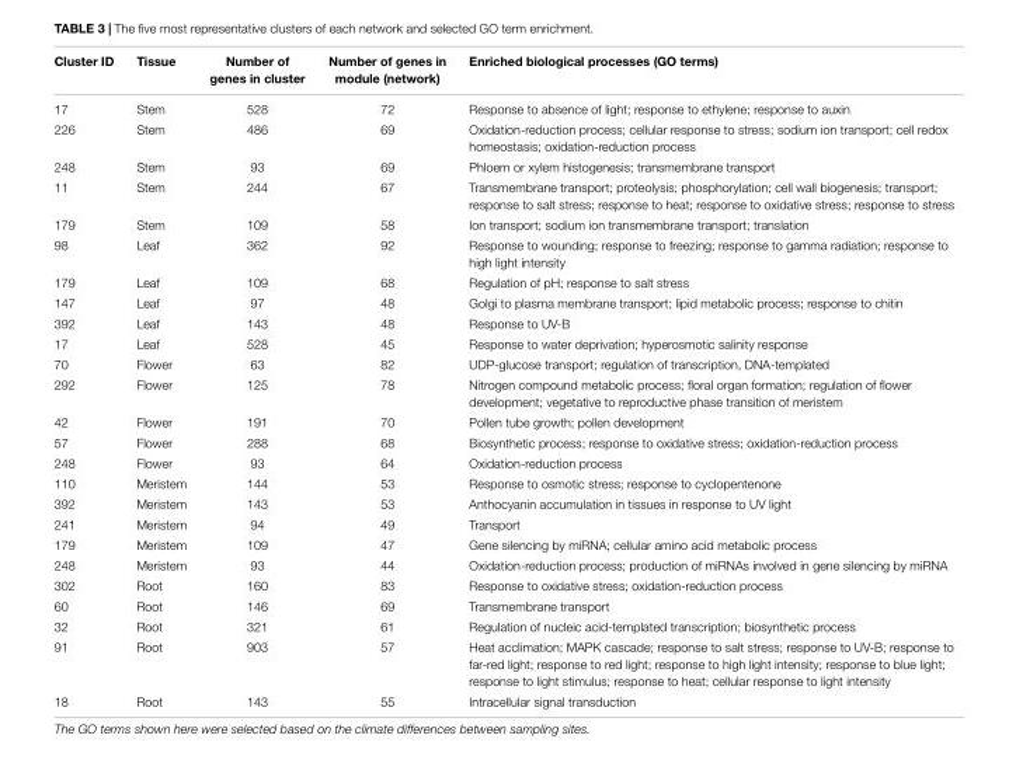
<table><thead><tr><td>Cluster ID</td><td>Tissue</td><td>Number of genes in cluster</td><td>Number of genes in module (network)</td><td>Enriched biological processes (GO terms)</td></tr></thead><tbody><tr><td>17</td><td>Stem</td><td>528</td><td>72</td><td>Response to absence of light; response to ethylene; response to auxin</td></tr><tr><td>226</td><td>Stem</td><td>486</td><td>69</td><td>Oxidation-reduction process; cellular response to stress; sodium ion transport; cell redox homeostasis; oxidation-reduction process</td></tr><tr><td>248</td><td>Stem</td><td>93</td><td>69</td><td>Phloem or xylem histogenesis; transmembrane transport</td></tr><tr><td>11</td><td>Stem</td><td>244</td><td>67</td><td>Transmembrane transport; proteolysis; phosphorylation; cell wall biogenesis; transport; response to salt stress; response to heat; response to oxidative stress; response to stress</td></tr><tr><td>179</td><td>Stem</td><td>109</td><td>58</td><td>Ion transport; sodium ion transmembrane transport; translation</td></tr><tr><td>98</td><td>Leaf</td><td>362</td><td>92</td><td>Response to wounding; response to freezing; response to gamma radiation; response to high light intensity</td></tr><tr><td>179</td><td>Leaf</td><td>109</td><td>68</td><td>Regulation of pH; response to salt stress</td></tr><tr><td>147</td><td>Leaf</td><td>97</td><td>48</td><td>Golgi to plasma membrane transport; lipid metabolic process; response to chitin</td></tr><tr><td>392</td><td>Leaf</td><td>143</td><td>48</td><td>Response to UV-B</td></tr><tr><td>17</td><td>Leaf</td><td>528</td><td>45</td><td>Response to water deprivation; hyperosmotic salinity response</td></tr><tr><td>70</td><td>Flower</td><td>63</td><td>82</td><td>UDP-glucose transport; regulation of transcription, DNA-templated</td></tr><tr><td>292</td><td>Flower</td><td>125</td><td>78</td><td>Nitrogen compound metabolic process; floral organ formation; regulation of flower development; vegetative to reproductive phase transition of meristem</td></tr><tr><td>42</td><td>Flower</td><td>191</td><td>70</td><td>Pollen tube growth; pollen development</td></tr><tr><td>57</td><td>Flower</td><td>288</td><td>68</td><td>Biosynthetic process; response to oxidative stress; oxidation-reduction process</td></tr><tr><td>248</td><td>Flower</td><td>93</td><td>64</td><td>Oxidation-reduction process</td></tr><tr><td>110</td><td>Meristem</td><td>144</td><td>53</td><td>Response to osmotic stress; response to cyclopentenone</td></tr><tr><td>392</td><td>Meristem</td><td>143</td><td>53</td><td>Anthocyanin accumulation in tissues in response to UV light</td></tr><tr><td>241</td><td>Meristem</td><td>94</td><td>49</td><td>Transport</td></tr><tr><td>179</td><td>Meristem</td><td>109</td><td>47</td><td>Gene silencing by miRNA; cellular amino acid metabolic process</td></tr><tr><td>248</td><td>Meristem</td><td>93</td><td>44</td><td>Oxidation-reduction process; production of miRNAs involved in gene silencing by miRNA</td></tr><tr><td>302</td><td>Root</td><td>160</td><td>83</td><td>Response to oxidative stress; oxidation-reduction process</td></tr><tr><td>60</td><td>Root</td><td>146</td><td>69</td><td>Transmembrane transport</td></tr><tr><td>32</td><td>Root</td><td>321</td><td>61</td><td>Regulation of nucleic acid-templated transcription; biosynthetic process</td></tr><tr><td>91</td><td>Root</td><td>903</td><td>57</td><td>Heat acclimation; MAPK cascade; response to salt stress; response to UV-B; response to far-red light; response to red light; response to high light intensity; response to blue light; response to light stimulus; response to heat; cellular response to light intensity</td></tr><tr><td>18</td><td>Root</td><td>143</td><td>55</td><td>Intracellular signal transduction</td></tr></tbody></table>